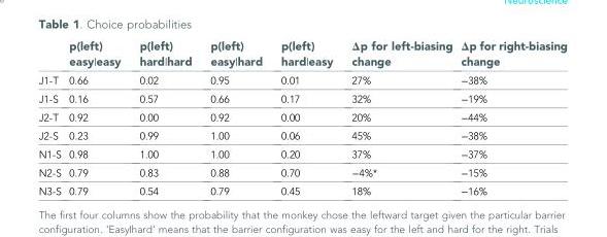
<table><thead><tr><td></td><td>p(left) easy|easy</td><td>p(left) hard|hard</td><td>p(left) easy|hard</td><td>p(left) hard|easy</td><td>Δp for left-biasing change</td><td>Δp for right-biasing change</td></tr></thead><tbody><tr><td>J1-T</td><td>0.66</td><td>0.02</td><td>0.95</td><td>0.01</td><td>27%</td><td>−38%</td></tr><tr><td>J1-S</td><td>0.16</td><td>0.57</td><td>0.66</td><td>0.17</td><td>32%</td><td>−19%</td></tr><tr><td>J2-T</td><td>0.92</td><td>0.00</td><td>0.92</td><td>0.00</td><td>20%</td><td>−44%</td></tr><tr><td>J2-S</td><td>0.23</td><td>0.99</td><td>1.00</td><td>0.06</td><td>45%</td><td>−38%</td></tr><tr><td>N1-S</td><td>0.98</td><td>1.00</td><td>1.00</td><td>0.20</td><td>37%</td><td>−37%</td></tr><tr><td>N2-S</td><td>0.79</td><td>0.83</td><td>0.88</td><td>0.70</td><td>−4%*</td><td>−15%</td></tr><tr><td>N3-S</td><td>0.79</td><td>0.54</td><td>0.79</td><td>0.45</td><td>18%</td><td>−16%</td></tr></tbody></table>